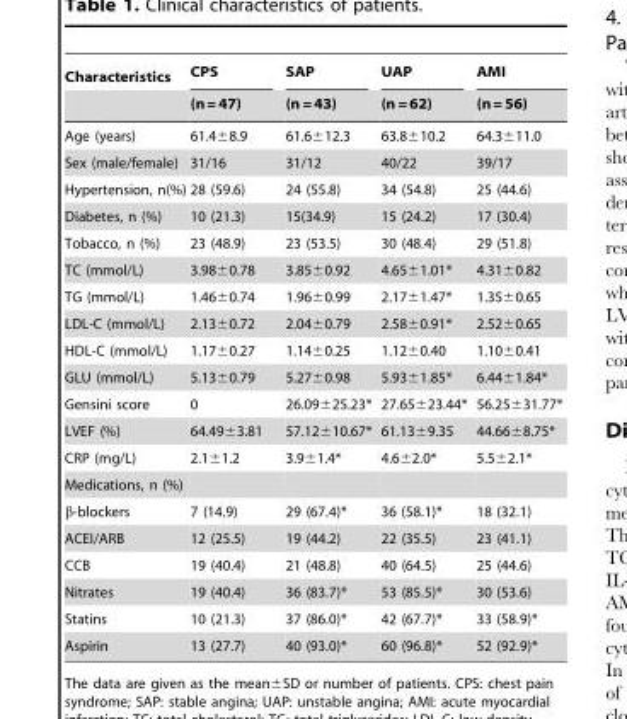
<table><thead><tr><td rowspan="2">Characteristics</td><td rowspan="2">CPS (n = 47)</td><td rowspan="2">SAP (n = 43)</td><td rowspan="2">UAP (n = 62)</td><td rowspan="2">AMI (n = 56)</td></tr><tr></tr></thead><tbody><tr><td>Age (years)</td><td>61.4±8.9</td><td>61.6±12.3</td><td>63.8±10.2</td><td>64.3±11.0</td></tr><tr><td>Sex (male/female)</td><td>31/16</td><td>31/12</td><td>40/22</td><td>39/17</td></tr><tr><td>Hypertension, n(%)</td><td>28 (59.6)</td><td>24 (55.8)</td><td>34 (54.8)</td><td>25 (44.6)</td></tr><tr><td>Diabetes, n (%)</td><td>10 (21.3)</td><td>15(34.9)</td><td>15 (24.2)</td><td>17 (30.4)</td></tr><tr><td>Tobacco, n (%)</td><td>23 (48.9)</td><td>23 (53.5)</td><td>30 (48.4)</td><td>29 (51.8)</td></tr><tr><td>TC (mmol/L)</td><td>3.98±0.78</td><td>3.85±0.92</td><td>4.65±1.01*</td><td>4.31±0.82</td></tr><tr><td>TG (mmol/L)</td><td>1.46±0.74</td><td>1.96±0.99</td><td>2.17±1.47*</td><td>1.35±0.65</td></tr><tr><td>LDL-C (mmol/L)</td><td>2.13±0.72</td><td>2.04±0.79</td><td>2.58±0.91*</td><td>2.52±0.65</td></tr><tr><td>HDL-C (mmol/L)</td><td>1.17±0.27</td><td>1.14±0.25</td><td>1.12±0.40</td><td>1.10±0.41</td></tr><tr><td>GLU (mmol/L)</td><td>5.13±0.79</td><td>5.27±0.98</td><td>5.93±1.85*</td><td>6.44±1.84*</td></tr><tr><td>Gensini score</td><td>0</td><td>26.09±25.23*</td><td>27.65±23.44*</td><td>56.25±31.77*</td></tr><tr><td>LVEF (%)</td><td>64.49±3.81</td><td>57.12±10.67*</td><td>61.13±9.35</td><td>44.66±8.75*</td></tr><tr><td>CRP (mg/L)</td><td>2.1±1.2</td><td>3.9±1.4*</td><td>4.6±2.0*</td><td>5.5±2.1*</td></tr><tr><td colspan="5">Medications, n (%)</td></tr><tr><td>β-blockers</td><td>7 (14.9)</td><td>29 (67.4)*</td><td>36 (58.1)*</td><td>18 (32.1)</td></tr><tr><td>ACEI/ARB</td><td>12 (25.5)</td><td>19 (44.2)</td><td>22 (35.5)</td><td>23 (41.1)</td></tr><tr><td>CCB</td><td>19 (40.4)</td><td>21 (48.8)</td><td>40 (64.5)</td><td>25 (44.6)</td></tr><tr><td>Nitrates</td><td>19 (40.4)</td><td>36 (83.7)*</td><td>53 (85.5)*</td><td>30 (53.6)</td></tr><tr><td>Statins</td><td>10 (21.3)</td><td>37 (86.0)*</td><td>42 (67.7)*</td><td>33 (58.9)*</td></tr><tr><td>Aspirin</td><td>13 (27.7)</td><td>40 (93.0)*</td><td>60 (96.8)*</td><td>52 (92.9)*</td></tr></tbody></table>